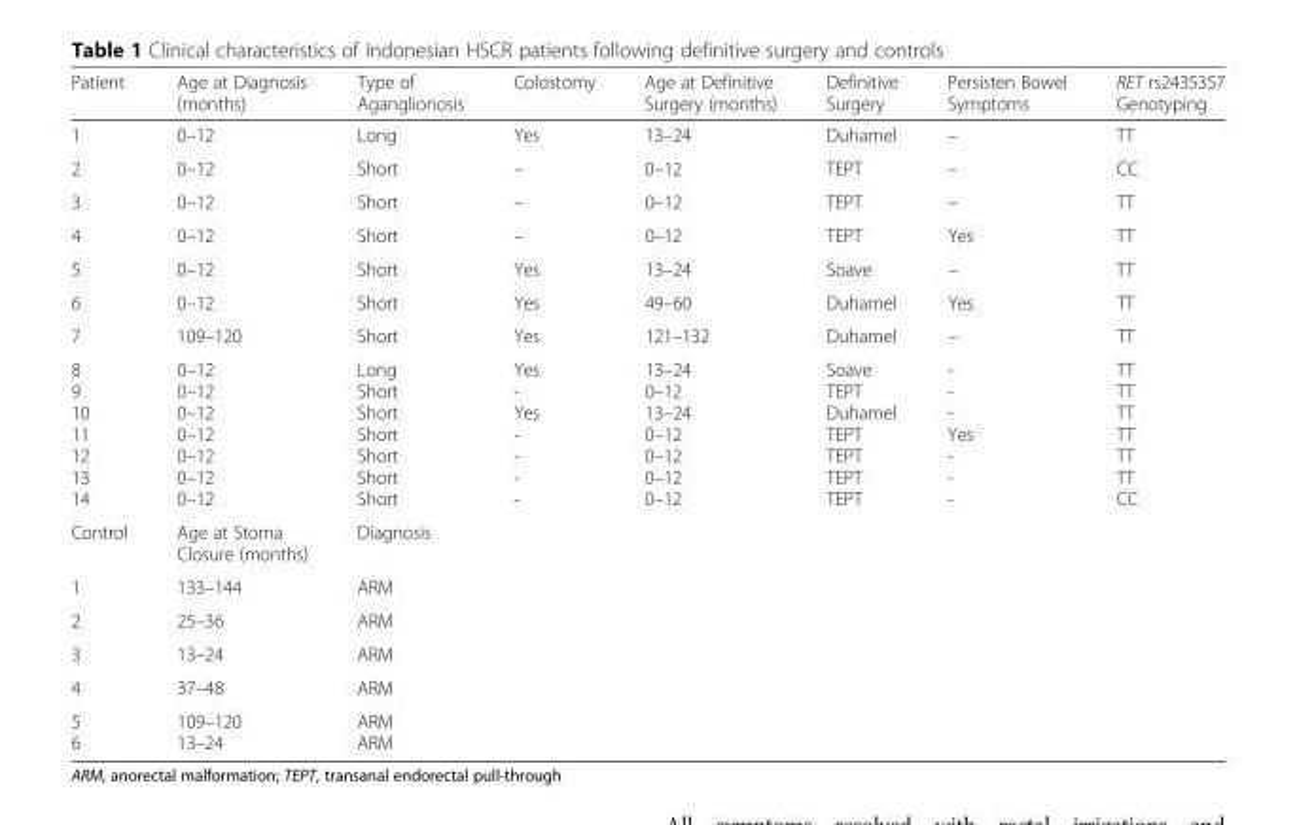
<table><thead><tr><td>Patient</td><td>Age at Diagnosis (months)</td><td>Type of Aganglionosis</td><td>Colostomy</td><td>Age at Definitive Surgery (months)</td><td>Definitive Surgery</td><td>Persisten Bowel Symptoms</td><td>RET rs2435357 Genotyping</td></tr></thead><tbody><tr><td>1</td><td>0–12</td><td>Long</td><td>Yes</td><td>13–24</td><td>Duhamel</td><td>–</td><td>TT</td></tr><tr><td>2</td><td>0–12</td><td>Short</td><td>–</td><td>0–12</td><td>TEPT</td><td>–</td><td>CC</td></tr><tr><td>3</td><td>0–12</td><td>Short</td><td>–</td><td>0–12</td><td>TEPT</td><td>–</td><td>TT</td></tr><tr><td>4</td><td>0–12</td><td>Short</td><td>–</td><td>0–12</td><td>TEPT</td><td>Yes</td><td>TT</td></tr><tr><td>5</td><td>0–12</td><td>Short</td><td>Yes</td><td>13–24</td><td>Soave</td><td>–</td><td>TT</td></tr><tr><td>6</td><td>0–12</td><td>Short</td><td>Yes</td><td>49–60</td><td>Duhamel</td><td>Yes</td><td>TT</td></tr><tr><td>7</td><td>109–120</td><td>Short</td><td>Yes</td><td>121–132</td><td>Duhamel</td><td>–</td><td>TT</td></tr><tr><td>8 9 10 11 12 13 14</td><td>0–12 0–12 0–12 0–12 0–12 0–12 0–12</td><td>Long Short Short Short Short Short Short</td><td>Yes - Yes - - - -</td><td>13–24 0–12 13–24 0–12 0–12 0–12 0–12</td><td>Soave TEPT Duhamel TEPT TEPT TEPT TEPT</td><td>- - - Yes - - -</td><td>TT TT TT TT TT TT CC</td></tr><tr><td>Control</td><td>Age at Stoma Closure (months)</td><td>Diagnosis</td><td></td><td></td><td></td><td></td><td></td></tr><tr><td>1</td><td>133–144</td><td>ARM</td><td></td><td></td><td></td><td></td><td></td></tr><tr><td>2</td><td>25–36</td><td>ARM</td><td></td><td></td><td></td><td></td><td></td></tr><tr><td>3</td><td>13–24</td><td>ARM</td><td></td><td></td><td></td><td></td><td></td></tr><tr><td>4</td><td>37–48</td><td>ARM</td><td></td><td></td><td></td><td></td><td></td></tr><tr><td>5 6</td><td>109–120 13–24</td><td>ARM ARM</td><td></td><td></td><td></td><td></td><td></td></tr></tbody></table>